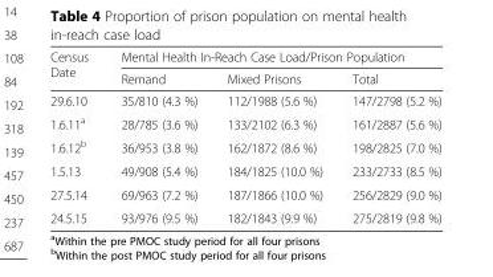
<table><thead><tr><td rowspan="2">Census Date</td><td colspan="3">Mental Health In-Reach Case Load/Prison Population</td></tr><tr><td>Remand</td><td>Mixed Prisons</td><td>Total</td></tr></thead><tbody><tr><td>29.6.10</td><td>35/810 (4.3 %)</td><td>112/1988 (5.6 %)</td><td>147/2798 (5.2 %)</td></tr><tr><td>1.6.11<sup>a</sup></td><td>28/785 (3.6 %)</td><td>133/2102 (6.3 %)</td><td>161/2887 (5.6 %)</td></tr><tr><td>1.6.12<sup>b</sup></td><td>36/953 (3.8 %)</td><td>162/1872 (8.6 %)</td><td>198/2825 (7.0 %)</td></tr><tr><td>1.5.13</td><td>49/908 (5.4 %)</td><td>184/1825 (10.0 %)</td><td>233/2733 (8.5 %)</td></tr><tr><td>27.5.14</td><td>69/963 (7.2 %)</td><td>187/1866 (10.0 %)</td><td>256/2829 (9.0 %)</td></tr><tr><td>24.5.15</td><td>93/976 (9.5 %)</td><td>182/1843 (9.9 %)</td><td>275/2819 (9.8 %)</td></tr></tbody></table>